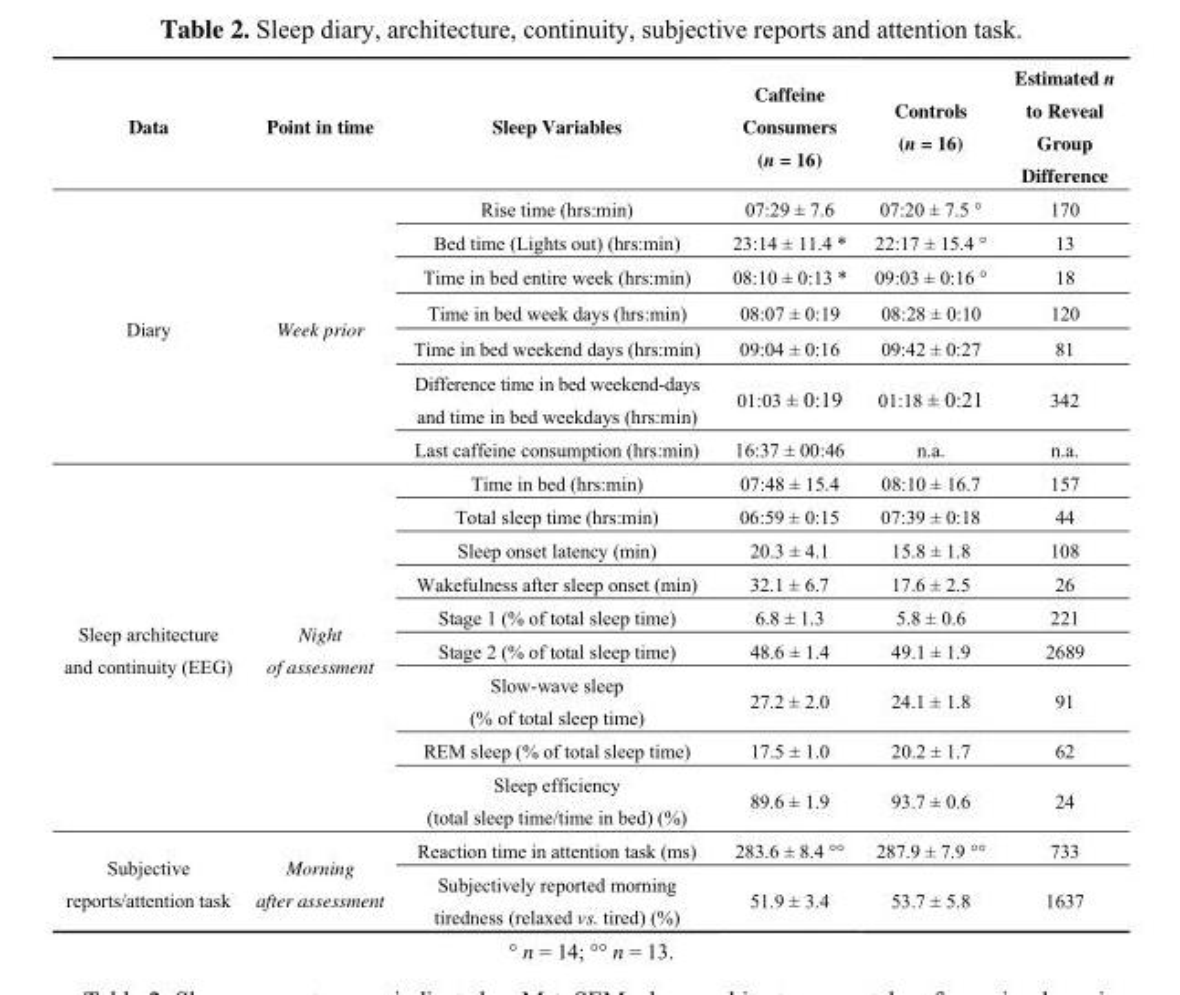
<table><thead><tr><td>Data</td><td>Point in time</td><td>Sleep Variables</td><td>Caffeine Consumers (n = 16)</td><td>Controls (n = 16)</td><td>Estimated n to Reveal Group Difference</td></tr></thead><tbody><tr><td rowspan="7">Diary</td><td rowspan="7">Week prior</td><td>Rise time (hrs:min)</td><td>07:29 ± 7.6</td><td>07:20 ± 7.5 °</td><td>170</td></tr><tr><td>Bed time (Lights out) (hrs:min)</td><td>23:14 ± 11.4 *</td><td>22:17 ± 15.4 °</td><td>13</td></tr><tr><td>Time in bed entire week (hrs:min)</td><td>08:10 ± 0:13 *</td><td>09:03 ± 0:16 °</td><td>18</td></tr><tr><td>Time in bed week days (hrs:min)</td><td>08:07 ± 0:19</td><td>08:28 ± 0:10</td><td>120</td></tr><tr><td>Time in bed weekend days (hrs:min)</td><td>09:04 ± 0:16</td><td>09:42 ± 0:27</td><td>81</td></tr><tr><td>Difference time in bed weekend-days and time in bed weekdays (hrs:min)</td><td>01:03 ± 0:19</td><td>01:18 ± 0:21</td><td>342</td></tr><tr><td>Last caffeine consumption (hrs:min)</td><td>16:37 ± 00:46</td><td>n.a.</td><td>n.a.</td></tr><tr><td rowspan="9">Sleep architecture and continuity (EEG)</td><td rowspan="9">Night of assessment</td><td>Time in bed (hrs:min)</td><td>07:48 ± 15.4</td><td>08:10 ± 16.7</td><td>157</td></tr><tr><td>Total sleep time (hrs:min)</td><td>06:59 ± 0:15</td><td>07:39 ± 0:18</td><td>44</td></tr><tr><td>Sleep onset latency (min)</td><td>20.3 ± 4.1</td><td>15.8 ± 1.8</td><td>108</td></tr><tr><td>Wakefulness after sleep onset (min)</td><td>32.1 ± 6.7</td><td>17.6 ± 2.5</td><td>26</td></tr><tr><td>Stage 1 (% of total sleep time)</td><td>6.8 ± 1.3</td><td>5.8 ± 0.6</td><td>221</td></tr><tr><td>Stage 2 (% of total sleep time)</td><td>48.6 ± 1.4</td><td>49.1 ± 1.9</td><td>2689</td></tr><tr><td>Slow-wave sleep (% of total sleep time)</td><td>27.2 ± 2.0</td><td>24.1 ± 1.8</td><td>91</td></tr><tr><td>REM sleep (% of total sleep time)</td><td>17.5 ± 1.0</td><td>20.2 ± 1.7</td><td>62</td></tr><tr><td>Sleep efficiency (total sleep time/time in bed) (%)</td><td>89.6 ± 1.9</td><td>93.7 ± 0.6</td><td>24</td></tr><tr><td rowspan="2">Subjective reports/attention task</td><td rowspan="2">Morning after assessment</td><td>Reaction time in attention task (ms)</td><td>283.6 ± 8.4 °°</td><td>287.9 ± 7.9 °°</td><td>733</td></tr><tr><td>Subjectively reported morning tiredness (relaxed vs. tired) (%)</td><td>51.9 ± 3.4</td><td>53.7 ± 5.8</td><td>1637</td></tr></tbody></table>